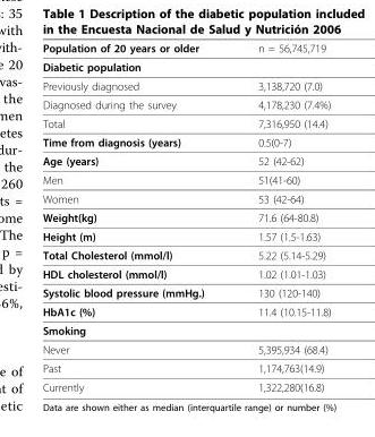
<table><thead><tr><td>Population of 20 years or older</td><td>n = 56,745,719</td></tr></thead><tbody><tr><td colspan="2">Diabetic population</td></tr><tr><td>Previously diagnosed</td><td>3,138,720 (7.0)</td></tr><tr><td>Diagnosed during the survey</td><td>4,178,230 (7.4%)</td></tr><tr><td>Total</td><td>7,316,950 (14.4)</td></tr><tr><td>Time from diagnosis (years)</td><td>0.5(0-7)</td></tr><tr><td>Age (years)</td><td>52 (42-62)</td></tr><tr><td>Men</td><td>51(41-60)</td></tr><tr><td>Women</td><td>53 (42-64)</td></tr><tr><td>Weight(kg)</td><td>71.6 (64-80.8)</td></tr><tr><td>Height (m)</td><td>1.57 (1.5-1.63)</td></tr><tr><td>Total Cholesterol (mmol/l)</td><td>5.22 (5.14-5.29)</td></tr><tr><td>HDL cholesterol (mmol/l)</td><td>1.02 (1.01-1.03)</td></tr><tr><td>Systolic blood pressure (mmHg.)</td><td>130 (120-140)</td></tr><tr><td>HbA1c (%)</td><td>11.4 (10.15-11.8)</td></tr><tr><td colspan="2">Smoking</td></tr><tr><td>Never</td><td>5,395,934 (68.4)</td></tr><tr><td>Past</td><td>1,174,763(14.9)</td></tr><tr><td>Currently</td><td>1,322,280(16.8)</td></tr></tbody></table>